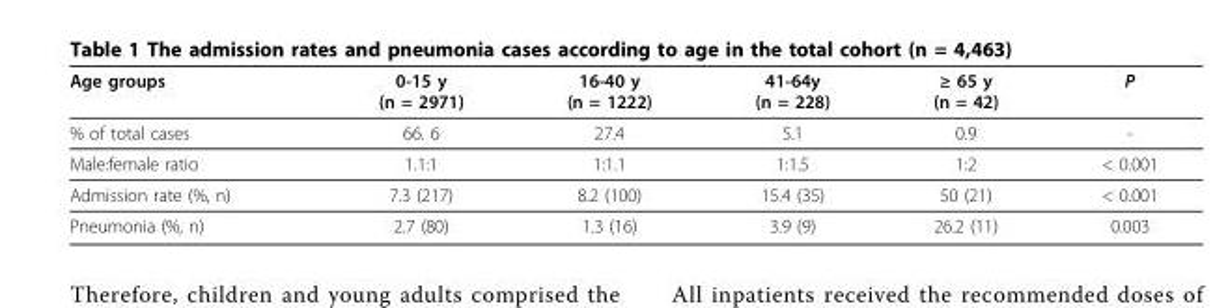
<table><thead><tr><td>Age groups</td><td>0-15 y (n = 2971)</td><td>16-40 y (n = 1222)</td><td>41-64y (n = 228)</td><td>≥ 65 y (n = 42)</td><td>P</td></tr></thead><tbody><tr><td>% of total cases</td><td>66. 6</td><td>27.4</td><td>5.1</td><td>0.9</td><td>-</td></tr><tr><td>Male:female ratio</td><td>1.1:1</td><td>1:1.1</td><td>1:1.5</td><td>1:2</td><td>&lt; 0.001</td></tr><tr><td>Admission rate (%, n)</td><td>7.3 (217)</td><td>8.2 (100)</td><td>15.4 (35)</td><td>50 (21)</td><td>&lt; 0.001</td></tr><tr><td>Pneumonia (%, n)</td><td>2.7 (80)</td><td>1.3 (16)</td><td>3.9 (9)</td><td>26.2 (11)</td><td>0.003</td></tr></tbody></table>